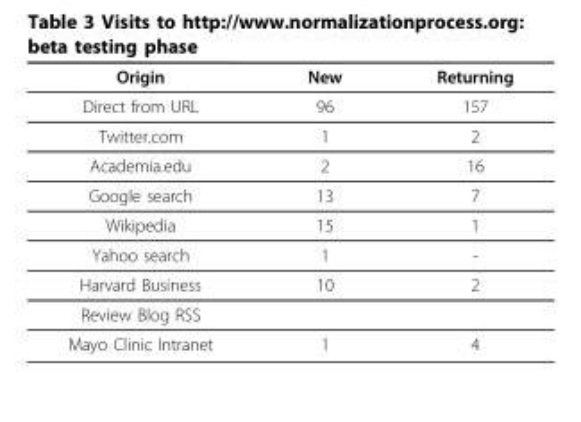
<table><thead><tr><td>Origin</td><td>New</td><td>Returning</td></tr></thead><tbody><tr><td>Direct from URL</td><td>96</td><td>157</td></tr><tr><td>Twitter.com</td><td>1</td><td>2</td></tr><tr><td>Academia.edu</td><td>2</td><td>16</td></tr><tr><td>Google search</td><td>13</td><td>7</td></tr><tr><td>Wikipedia</td><td>15</td><td>1</td></tr><tr><td>Yahoo search</td><td>1</td><td>-</td></tr><tr><td>Harvard Business</td><td>10</td><td>2</td></tr><tr><td colspan="3">Review Blog RSS</td></tr><tr><td>Mayo Clinic Intranet</td><td>1</td><td>4</td></tr></tbody></table>